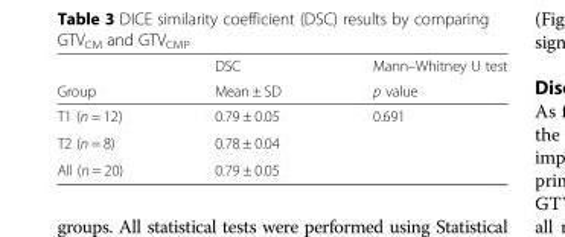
<table><thead><tr><td rowspan="2">Group</td><td rowspan="2">DSC Mean ± SD</td><td rowspan="2">Mann–Whitney U test p value</td></tr><tr></tr></thead><tbody><tr><td>T1 (n = 12)</td><td>0.79 ± 0.05</td><td rowspan="2">0.691</td></tr><tr><td>T2 (n = 8)</td><td>0.78 ± 0.04</td></tr><tr><td>All (n = 20)</td><td>0.79 ± 0.05</td><td></td></tr></tbody></table>